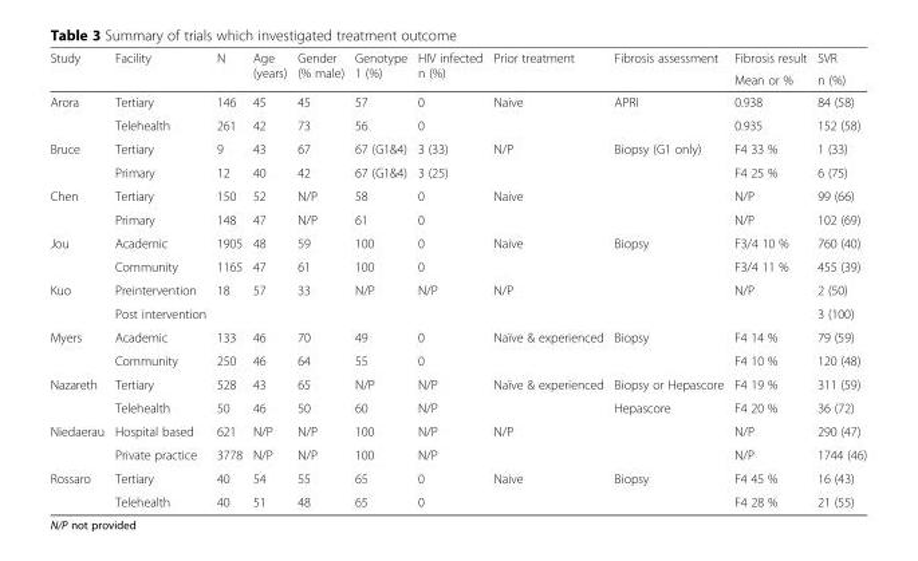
<table><thead><tr><td rowspan="2">Study</td><td rowspan="2">Facility</td><td rowspan="2">N</td><td rowspan="2">Age (years)</td><td rowspan="2">Gender (% male)</td><td rowspan="2">Genotype 1 (%)</td><td rowspan="2">HIV infected n (%)</td><td rowspan="2">Prior treatment</td><td rowspan="2">Fibrosis assessment</td><td rowspan="2">Fibrosis result Mean or %</td><td rowspan="2">SVR n (%)</td></tr><tr></tr></thead><tbody><tr><td rowspan="2">Arora</td><td>Tertiary</td><td>146</td><td>45</td><td>45</td><td>57</td><td>0</td><td rowspan="2">Naive</td><td rowspan="2">APRI</td><td>0.938</td><td>84 (58)</td></tr><tr><td>Telehealth</td><td>261</td><td>42</td><td>73</td><td>56</td><td>0</td><td>0.935</td><td>152 (58)</td></tr><tr><td rowspan="2">Bruce</td><td>Tertiary</td><td>9</td><td>43</td><td>67</td><td>67 (G1&amp;4)</td><td>3 (33)</td><td rowspan="2">N/P</td><td rowspan="2">Biopsy (G1 only)</td><td>F4 33 %</td><td>1 (33)</td></tr><tr><td>Primary</td><td>12</td><td>40</td><td>42</td><td>67 (G1&amp;4)</td><td>3 (25)</td><td>F4 25 %</td><td>6 (75)</td></tr><tr><td rowspan="2">Chen</td><td>Tertiary</td><td>150</td><td>52</td><td>N/P</td><td>58</td><td>0</td><td rowspan="2">Naive</td><td rowspan="2"></td><td>N/P</td><td>99 (66)</td></tr><tr><td>Primary</td><td>148</td><td>47</td><td>N/P</td><td>61</td><td>0</td><td>N/P</td><td>102 (69)</td></tr><tr><td rowspan="2">Jou</td><td>Academic</td><td>1905</td><td>48</td><td>59</td><td>100</td><td>0</td><td rowspan="2">Naive</td><td rowspan="2">Biopsy</td><td>F3/4 10 %</td><td>760 (40)</td></tr><tr><td>Community</td><td>1165</td><td>47</td><td>61</td><td>100</td><td>0</td><td>F3/4 11 %</td><td>455 (39)</td></tr><tr><td rowspan="2">Kuo</td><td>Preintervention</td><td rowspan="2">18</td><td rowspan="2">57</td><td rowspan="2">33</td><td rowspan="2">N/P</td><td rowspan="2">N/P</td><td rowspan="2">N/P</td><td rowspan="2"></td><td rowspan="2">N/P</td><td>2 (50)</td></tr><tr><td>Post intervention</td><td>3 (100)</td></tr><tr><td rowspan="2">Myers</td><td>Academic</td><td>133</td><td>46</td><td>70</td><td>49</td><td>0</td><td rowspan="2">Naïve &amp; experienced</td><td rowspan="2">Biopsy</td><td>F4 14 %</td><td>79 (59)</td></tr><tr><td>Community</td><td>250</td><td>46</td><td>64</td><td>55</td><td>0</td><td>F4 10 %</td><td>120 (48)</td></tr><tr><td rowspan="2">Nazareth</td><td>Tertiary</td><td>528</td><td>43</td><td>65</td><td>N/P</td><td>N/P</td><td rowspan="2">Naïve &amp; experienced</td><td>Biopsy or Hepascore</td><td>F4 19 %</td><td>311 (59)</td></tr><tr><td>Telehealth</td><td>50</td><td>46</td><td>50</td><td>60</td><td>N/P</td><td>Hepascore</td><td>F4 20 %</td><td>36 (72)</td></tr><tr><td rowspan="2">Niedaerau</td><td>Hospital based</td><td>621</td><td>N/P</td><td>N/P</td><td>100</td><td>N/P</td><td rowspan="2">N/P</td><td rowspan="2"></td><td>N/P</td><td>290 (47)</td></tr><tr><td>Private practice</td><td>3778</td><td>N/P</td><td>N/P</td><td>100</td><td>N/P</td><td>N/P</td><td>1744 (46)</td></tr><tr><td rowspan="2">Rossaro</td><td>Tertiary</td><td>40</td><td>54</td><td>55</td><td>65</td><td>0</td><td rowspan="2">Naive</td><td rowspan="2">Biopsy</td><td>F4 45 %</td><td>16 (43)</td></tr><tr><td>Telehealth</td><td>40</td><td>51</td><td>48</td><td>65</td><td>0</td><td>F4 28 %</td><td>21 (55)</td></tr></tbody></table>